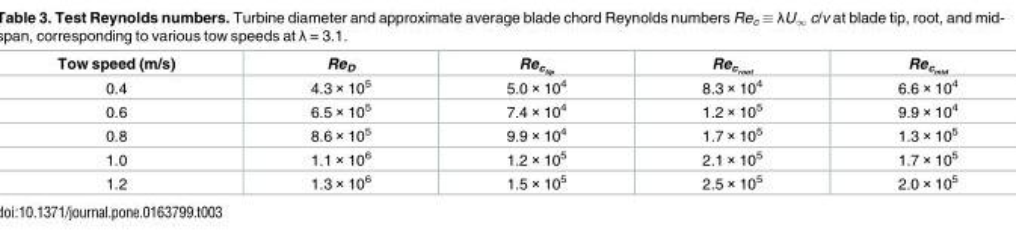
<table><thead><tr><td>Tow speed (m/s)</td><td>Re<sub>D</sub></td><td>Rectip</td><td>Recroot</td><td>Recmid</td></tr></thead><tbody><tr><td>0.4</td><td>4.3 × 10<sup>5</sup></td><td>5.0 × 10<sup>4</sup></td><td>8.3 × 10<sup>4</sup></td><td>6.6 × 10<sup>4</sup></td></tr><tr><td>0.6</td><td>6.5 × 10<sup>5</sup></td><td>7.4 × 10<sup>4</sup></td><td>1.2 × 10<sup>5</sup></td><td>9.9 × 10<sup>4</sup></td></tr><tr><td>0.8</td><td>8.6 × 10<sup>5</sup></td><td>9.9 × 10<sup>4</sup></td><td>1.7 × 10<sup>5</sup></td><td>1.3 × 10<sup>5</sup></td></tr><tr><td>1.0</td><td>1.1 × 10<sup>6</sup></td><td>1.2 × 10<sup>5</sup></td><td>2.1 × 10<sup>5</sup></td><td>1.7 × 10<sup>5</sup></td></tr><tr><td>1.2</td><td>1.3 × 10<sup>6</sup></td><td>1.5 × 10<sup>5</sup></td><td>2.5 × 10<sup>5</sup></td><td>2.0 × 10<sup>5</sup></td></tr></tbody></table>